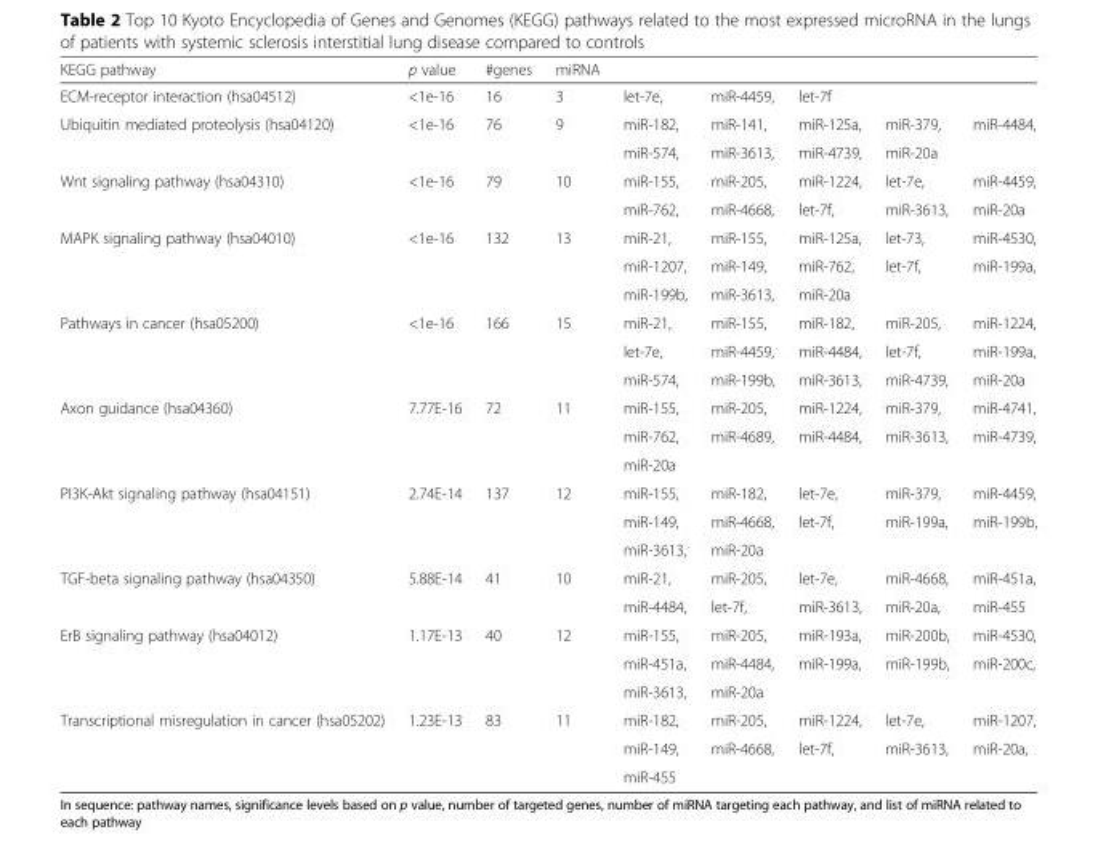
<table><thead><tr><td>KEGG pathway</td><td>p value</td><td>#genes</td><td>miRNA</td><td></td><td></td><td></td><td></td><td></td></tr></thead><tbody><tr><td>ECM-receptor interaction (hsa04512)</td><td>&lt;1e-16</td><td>16</td><td>3</td><td>let-7e,</td><td>miR-4459,</td><td>let-7f</td><td></td><td></td></tr><tr><td rowspan="2">Ubiquitin mediated proteolysis (hsa04120)</td><td>&lt;1e-16</td><td>76</td><td>9</td><td>miR-182,</td><td>miR-141,</td><td>miR-125a,</td><td>miR-379,</td><td>miR-4484,</td></tr><tr><td></td><td></td><td></td><td>miR-574,</td><td>miR-3613,</td><td>miR-4739,</td><td>miR-20a</td><td></td></tr><tr><td rowspan="2">Wnt signaling pathway (hsa04310)</td><td>&lt;1e-16</td><td>79</td><td>10</td><td>miR-155,</td><td>miR-205,</td><td>miR-1224,</td><td>let-7e,</td><td>miR-4459,</td></tr><tr><td></td><td></td><td></td><td>miR-762,</td><td>miR-4668,</td><td>let-7f,</td><td>miR-3613,</td><td>miR-20a</td></tr><tr><td rowspan="3">MAPK signaling pathway (hsa04010)</td><td>&lt;1e-16</td><td>132</td><td>13</td><td>miR-21,</td><td>miR-155,</td><td>miR-125a,</td><td>let-73,</td><td>miR-4530,</td></tr><tr><td></td><td></td><td></td><td>miR-1207,</td><td>miR-149,</td><td>miR-762,</td><td>let-7f,</td><td>miR-199a,</td></tr><tr><td></td><td></td><td></td><td>miR-199b,</td><td>miR-3613,</td><td>miR-20a</td><td></td><td></td></tr><tr><td rowspan="3">Pathways in cancer (hsa05200)</td><td>&lt;1e-16</td><td>166</td><td>15</td><td>miR-21,</td><td>miR-155,</td><td>miR-182,</td><td>miR-205,</td><td>miR-1224,</td></tr><tr><td></td><td></td><td></td><td>let-7e,</td><td>miR-4459,</td><td>miR-4484,</td><td>let-7f,</td><td>miR-199a,</td></tr><tr><td></td><td></td><td></td><td>miR-574,</td><td>miR-199b,</td><td>miR-3613,</td><td>miR-4739,</td><td>miR-20a</td></tr><tr><td rowspan="3">Axon guidance (hsa04360)</td><td>7.77E-16</td><td>72</td><td>11</td><td>miR-155,</td><td>miR-205,</td><td>miR-1224,</td><td>miR-379,</td><td>miR-4741,</td></tr><tr><td></td><td></td><td></td><td>miR-762,</td><td>miR-4689,</td><td>miR-4484,</td><td>miR-3613,</td><td>miR-4739,</td></tr><tr><td></td><td></td><td></td><td>miR-20a</td><td></td><td></td><td></td><td></td></tr><tr><td rowspan="3">PI3K-Akt signaling pathway (hsa04151)</td><td>2.74E-14</td><td>137</td><td>12</td><td>miR-155,</td><td>miR-182,</td><td>let-7e,</td><td>miR-379,</td><td>miR-4459,</td></tr><tr><td></td><td></td><td></td><td>miR-149,</td><td>miR-4668,</td><td>let-7f,</td><td>miR-199a,</td><td>miR-199b,</td></tr><tr><td></td><td></td><td></td><td>miR-3613,</td><td>miR-20a</td><td></td><td></td><td></td></tr><tr><td rowspan="2">TGF-beta signaling pathway (hsa04350)</td><td>5.88E-14</td><td>41</td><td>10</td><td>miR-21,</td><td>miR-205,</td><td>let-7e,</td><td>miR-4668,</td><td>miR-451a,</td></tr><tr><td></td><td></td><td></td><td>miR-4484,</td><td>let-7f,</td><td>miR-3613,</td><td>miR-20a,</td><td>miR-455</td></tr><tr><td rowspan="3">ErB signaling pathway (hsa04012)</td><td>1.17E-13</td><td>40</td><td>12</td><td>miR-155,</td><td>miR-205,</td><td>miR-193a,</td><td>miR-200b,</td><td>miR-4530,</td></tr><tr><td></td><td></td><td></td><td>miR-451a,</td><td>miR-4484,</td><td>miR-199a,</td><td>miR-199b,</td><td>miR-200c,</td></tr><tr><td></td><td></td><td></td><td>miR-3613,</td><td>miR-20a</td><td></td><td></td><td></td></tr><tr><td rowspan="3">Transcriptional misregulation in cancer (hsa05202)</td><td>1.23E-13</td><td>83</td><td>11</td><td>miR-182,</td><td>miR-205,</td><td>miR-1224,</td><td>let-7e,</td><td>miR-1207,</td></tr><tr><td></td><td></td><td></td><td>miR-149,</td><td>miR-4668,</td><td>let-7f,</td><td>miR-3613,</td><td>miR-20a,</td></tr><tr><td></td><td></td><td></td><td>miR-455</td><td></td><td></td><td></td><td></td></tr></tbody></table>